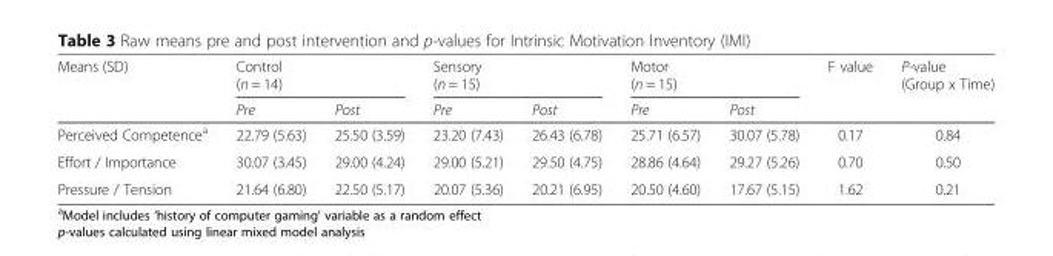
<table><thead><tr><td rowspan="3">Means (SD)</td><td rowspan="2" colspan="2">Control (n = 14)</td><td rowspan="2" colspan="2">Sensory (n = 15)</td><td rowspan="2" colspan="2">Motor (n = 15)</td><td rowspan="3">F value</td><td rowspan="3">P-value (Group x Time)</td></tr><tr></tr><tr><td>Pre</td><td>Post</td><td>Pre</td><td>Post</td><td>Pre</td><td>Post</td></tr></thead><tbody><tr><td>Perceived Competence<sup>a</sup></td><td>22.79 (5.63)</td><td>25.50 (3.59)</td><td>23.20 (7.43)</td><td>26.43 (6.78)</td><td>25.71 (6.57)</td><td>30.07 (5.78)</td><td>0.17</td><td>0.84</td></tr><tr><td>Effort / Importance</td><td>30.07 (3.45)</td><td>29.00 (4.24)</td><td>29.00 (5.21)</td><td>29.50 (4.75)</td><td>28.86 (4.64)</td><td>29.27 (5.26)</td><td>0.70</td><td>0.50</td></tr><tr><td>Pressure / Tension</td><td>21.64 (6.80)</td><td>22.50 (5.17)</td><td>20.07 (5.36)</td><td>20.21 (6.95)</td><td>20.50 (4.60)</td><td>17.67 (5.15)</td><td>1.62</td><td>0.21</td></tr></tbody></table>